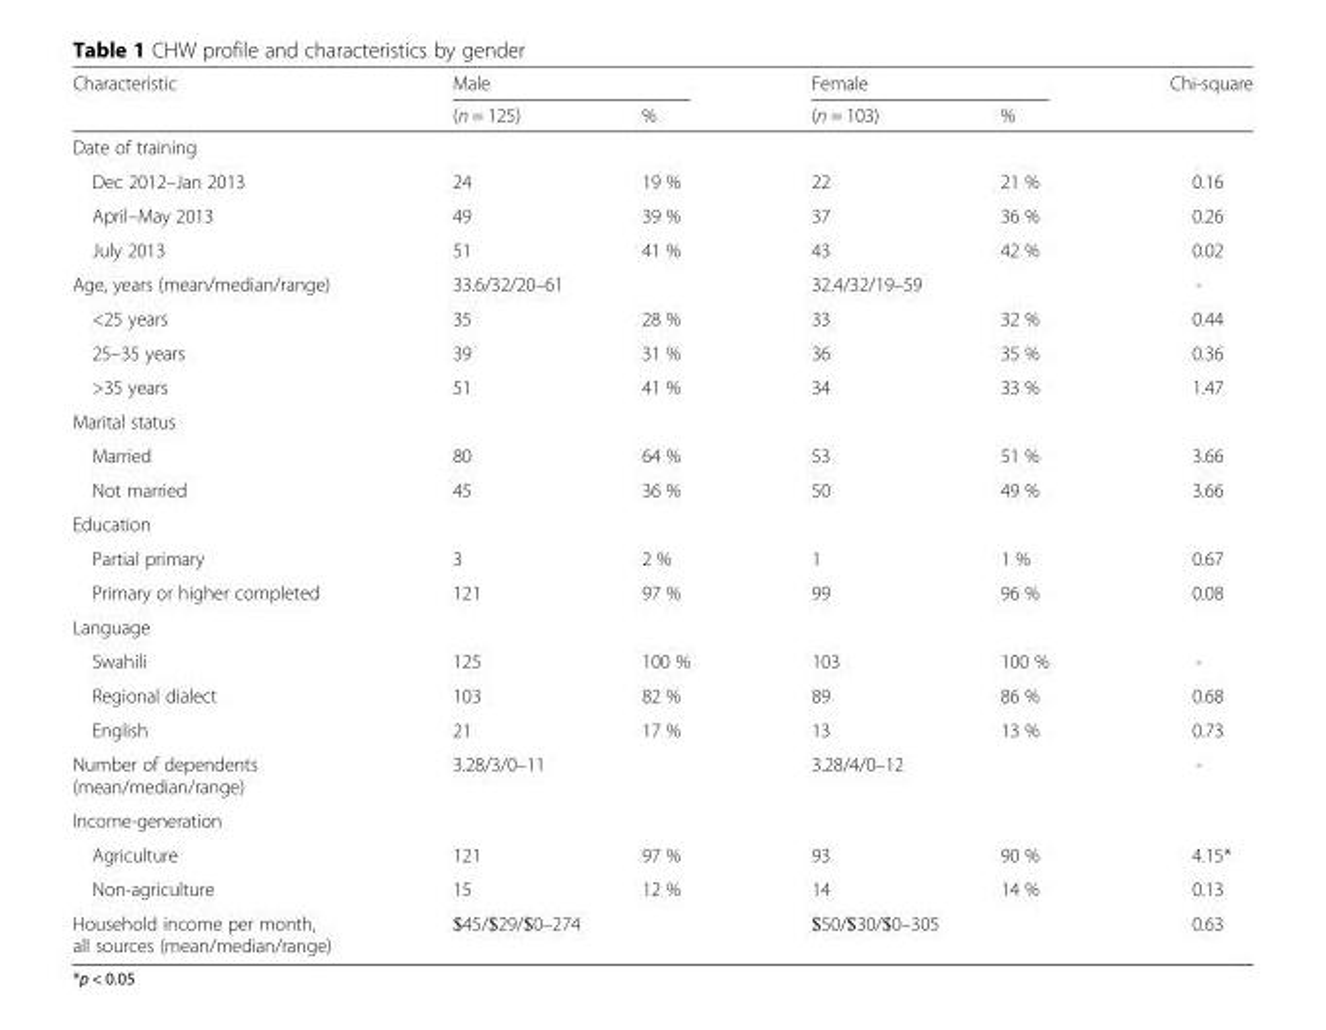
<table><thead><tr><td rowspan="2">Characteristic</td><td colspan="2">Male</td><td colspan="2">Female</td><td rowspan="2">Chi-square</td></tr><tr><td>(n = 125)</td><td>%</td><td>(n = 103)</td><td>%</td></tr></thead><tbody><tr><td colspan="6">Date of training</td></tr><tr><td>Dec 2012–Jan 2013</td><td>24</td><td>19 %</td><td>22</td><td>21 %</td><td>0.16</td></tr><tr><td>April–May 2013</td><td>49</td><td>39 %</td><td>37</td><td>36 %</td><td>0.26</td></tr><tr><td>July 2013</td><td>51</td><td>41 %</td><td>43</td><td>42 %</td><td>0.02</td></tr><tr><td>Age, years (mean/median/range)</td><td colspan="2">33.6/32/20–61</td><td colspan="2">32.4/32/19–59</td><td>-</td></tr><tr><td>&lt;25 years</td><td>35</td><td>28 %</td><td>33</td><td>32 %</td><td>0.44</td></tr><tr><td>25–35 years</td><td>39</td><td>31 %</td><td>36</td><td>35 %</td><td>0.36</td></tr><tr><td>&gt;35 years</td><td>51</td><td>41 %</td><td>34</td><td>33 %</td><td>1.47</td></tr><tr><td colspan="6">Marital status</td></tr><tr><td>Married</td><td>80</td><td>64 %</td><td>53</td><td>51 %</td><td>3.66</td></tr><tr><td>Not married</td><td>45</td><td>36 %</td><td>50</td><td>49 %</td><td>3.66</td></tr><tr><td colspan="6">Education</td></tr><tr><td>Partial primary</td><td>3</td><td>2 %</td><td>1</td><td>1 %</td><td>0.67</td></tr><tr><td>Primary or higher completed</td><td>121</td><td>97 %</td><td>99</td><td>96 %</td><td>0.08</td></tr><tr><td colspan="6">Language</td></tr><tr><td>Swahili</td><td>125</td><td>100 %</td><td>103</td><td>100 %</td><td>-</td></tr><tr><td>Regional dialect</td><td>103</td><td>82 %</td><td>89</td><td>86 %</td><td>0.68</td></tr><tr><td>English</td><td>21</td><td>17 %</td><td>13</td><td>13 %</td><td>0.73</td></tr><tr><td>Number of dependents (mean/median/range)</td><td colspan="2">3.28/3/0–11</td><td colspan="2">3.28/4/0–12</td><td>-</td></tr><tr><td colspan="6">Income-generation</td></tr><tr><td>Agriculture</td><td>121</td><td>97 %</td><td>93</td><td>90 %</td><td>4.15*</td></tr><tr><td>Non-agriculture</td><td>15</td><td>12 %</td><td>14</td><td>14 %</td><td>0.13</td></tr><tr><td>Household income per month, all sources (mean/median/range)</td><td colspan="2">$45/$29/$0–274</td><td colspan="2">$50/$30/$0–305</td><td>0.63</td></tr></tbody></table>